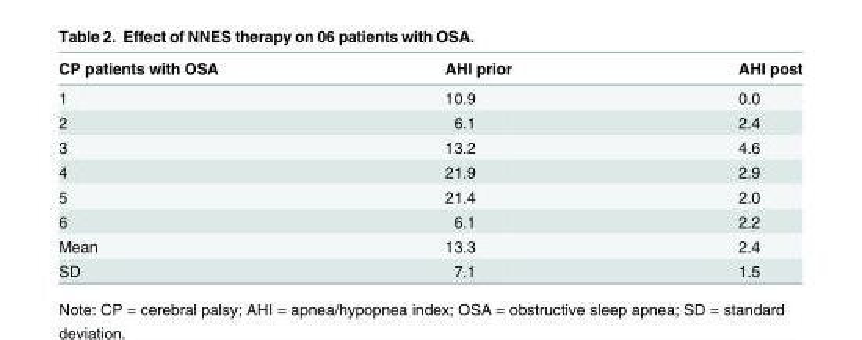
<table><thead><tr><td>CP patients with OSA</td><td>AHI prior</td><td>AHI post</td></tr></thead><tbody><tr><td>1</td><td>10.9</td><td>0.0</td></tr><tr><td>2</td><td>6.1</td><td>2.4</td></tr><tr><td>3</td><td>13.2</td><td>4.6</td></tr><tr><td>4</td><td>21.9</td><td>2.9</td></tr><tr><td>5</td><td>21.4</td><td>2.0</td></tr><tr><td>6</td><td>6.1</td><td>2.2</td></tr><tr><td>Mean</td><td>13.3</td><td>2.4</td></tr><tr><td>SD</td><td>7.1</td><td>1.5</td></tr></tbody></table>